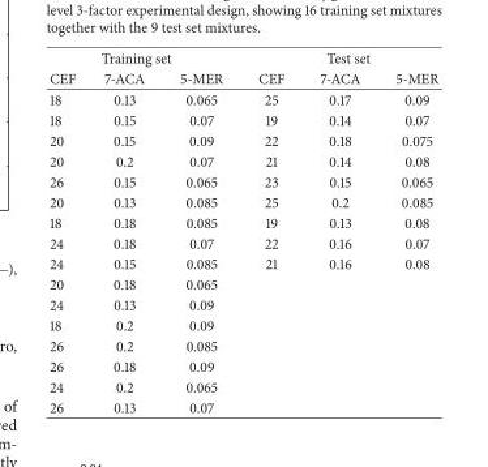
<table><thead><tr><td colspan="3">Training set</td><td colspan="3">Test set</td></tr><tr><td>CEF</td><td>7-ACA</td><td>5-MER</td><td>CEF</td><td>7-ACA</td><td>5-MER</td></tr></thead><tbody><tr><td>18</td><td>0.13</td><td>0.065</td><td>25</td><td>0.17</td><td>0.09</td></tr><tr><td>18</td><td>0.15</td><td>0.07</td><td>19</td><td>0.14</td><td>0.07</td></tr><tr><td>20</td><td>0.15</td><td>0.09</td><td>22</td><td>0.18</td><td>0.075</td></tr><tr><td>20</td><td>0.2</td><td>0.07</td><td>21</td><td>0.14</td><td>0.08</td></tr><tr><td>26</td><td>0.15</td><td>0.065</td><td>23</td><td>0.15</td><td>0.065</td></tr><tr><td>20</td><td>0.13</td><td>0.085</td><td>25</td><td>0.2</td><td>0.085</td></tr><tr><td>18</td><td>0.18</td><td>0.085</td><td>19</td><td>0.13</td><td>0.08</td></tr><tr><td>24</td><td>0.18</td><td>0.07</td><td>22</td><td>0.16</td><td>0.07</td></tr><tr><td>24</td><td>0.15</td><td>0.085</td><td>21</td><td>0.16</td><td>0.08</td></tr><tr><td>20</td><td>0.18</td><td>0.065</td><td></td><td></td><td></td></tr><tr><td>24</td><td>0.13</td><td>0.09</td><td></td><td></td><td></td></tr><tr><td>18</td><td>0.2</td><td>0.09</td><td></td><td></td><td></td></tr><tr><td>26</td><td>0.2</td><td>0.085</td><td></td><td></td><td></td></tr><tr><td>26</td><td>0.18</td><td>0.09</td><td></td><td></td><td></td></tr><tr><td>24</td><td>0.2</td><td>0.065</td><td></td><td></td><td></td></tr><tr><td>26</td><td>0.13</td><td>0.07</td><td></td><td></td><td></td></tr></tbody></table>